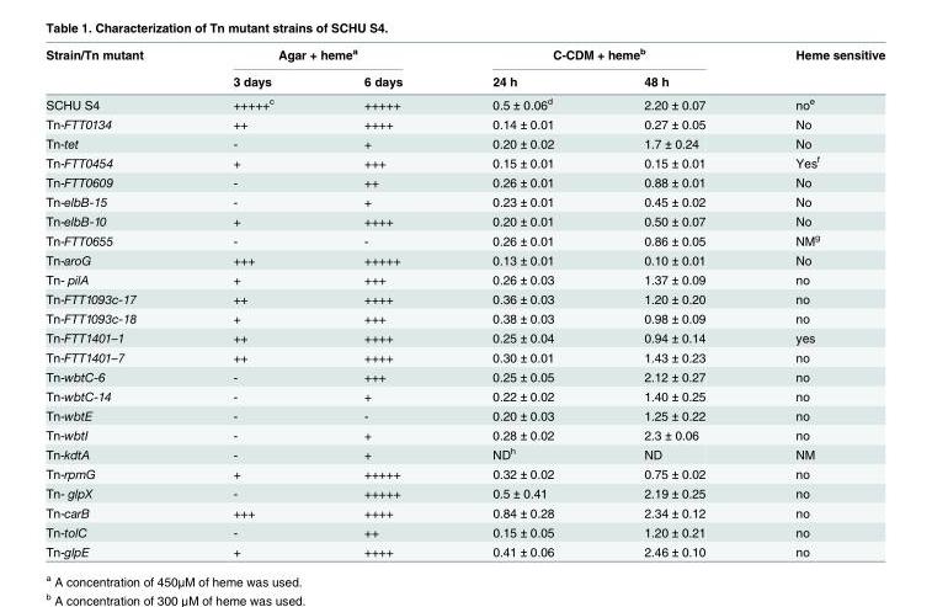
<table><thead><tr><td rowspan="2">Strain/Tn mutant</td><td colspan="2">Agar + heme<sup>a</sup></td><td colspan="2">C-CDM + heme<sup>b</sup></td><td rowspan="2">Heme sensitive</td></tr><tr><td>3 days</td><td>6 days</td><td>24 h</td><td>48 h</td></tr></thead><tbody><tr><td>SCHU S4</td><td>+++++<sup>c</sup></td><td>+++++</td><td>0.5 ± 0.06<sup>d</sup></td><td>2.20 ± 0.07</td><td>no<sup>e</sup></td></tr><tr><td>Tn-FTT0134</td><td>++</td><td>++++</td><td>0.14 ± 0.01</td><td>0.27 ± 0.05</td><td>No</td></tr><tr><td>Tn-tet</td><td>-</td><td>+</td><td>0.20 ± 0.02</td><td>1.7 ± 0.24</td><td>No</td></tr><tr><td>Tn-FTT0454</td><td>+</td><td>+++</td><td>0.15 ± 0.01</td><td>0.15 ± 0.01</td><td>Yes<sup>f</sup></td></tr><tr><td>Tn-FTT0609</td><td>-</td><td>++</td><td>0.26 ± 0.01</td><td>0.88 ± 0.01</td><td>No</td></tr><tr><td>Tn-elbB-15</td><td>-</td><td>+</td><td>0.23 ± 0.01</td><td>0.45 ± 0.02</td><td>No</td></tr><tr><td>Tn-elbB-10</td><td>+</td><td>++++</td><td>0.20 ± 0.01</td><td>0.50 ± 0.07</td><td>No</td></tr><tr><td>Tn-FTT0655</td><td>-</td><td>-</td><td>0.26 ± 0.01</td><td>0.86 ± 0.05</td><td>NM<sup>g</sup></td></tr><tr><td>Tn-aroG</td><td>+++</td><td>+++++</td><td>0.13 ± 0.01</td><td>0.10 ± 0.01</td><td>No</td></tr><tr><td>Tn- pilA</td><td>+</td><td>+++</td><td>0.26 ± 0.03</td><td>1.37 ± 0.09</td><td>no</td></tr><tr><td>Tn-FTT1093c-17</td><td>++</td><td>++++</td><td>0.36 ± 0.03</td><td>1.20 ± 0.20</td><td>no</td></tr><tr><td>Tn-FTT1093c-18</td><td>+</td><td>+++</td><td>0.38 ± 0.03</td><td>0.98 ± 0.09</td><td>no</td></tr><tr><td>Tn-FTT1401–1</td><td>++</td><td>++++</td><td>0.25 ± 0.04</td><td>0.94 ± 0.14</td><td>yes</td></tr><tr><td>Tn-FTT1401–7</td><td>++</td><td>++++</td><td>0.30 ± 0.01</td><td>1.43 ± 0.23</td><td>no</td></tr><tr><td>Tn-wbtC-6</td><td>-</td><td>+++</td><td>0.25 ± 0.05</td><td>2.12 ± 0.27</td><td>no</td></tr><tr><td>Tn-wbtC-14</td><td>-</td><td>+</td><td>0.22 ± 0.02</td><td>1.40 ± 0.25</td><td>no</td></tr><tr><td>Tn-wbtE</td><td>-</td><td>-</td><td>0.20 ± 0.03</td><td>1.25 ± 0.22</td><td>no</td></tr><tr><td>Tn-wbtI</td><td>-</td><td>+</td><td>0.28 ± 0.02</td><td>2.3 ± 0.06</td><td>no</td></tr><tr><td>Tn-kdtA</td><td>-</td><td>+</td><td>ND<sup>h</sup></td><td>ND</td><td>NM</td></tr><tr><td>Tn-rpmG</td><td>+</td><td>+++++</td><td>0.32 ± 0.02</td><td>0.75 ± 0.02</td><td>no</td></tr><tr><td>Tn- glpX</td><td>-</td><td>+++++</td><td>0.5 ± 0.41</td><td>2.19 ± 0.25</td><td>no</td></tr><tr><td>Tn-carB</td><td>+++</td><td>++++</td><td>0.84 ± 0.28</td><td>2.34 ± 0.12</td><td>no</td></tr><tr><td>Tn-tolC</td><td>-</td><td>++</td><td>0.15 ± 0.05</td><td>1.20 ± 0.21</td><td>no</td></tr><tr><td>Tn-glpE</td><td>+</td><td>++++</td><td>0.41 ± 0.06</td><td>2.46 ± 0.10</td><td>no</td></tr></tbody></table>